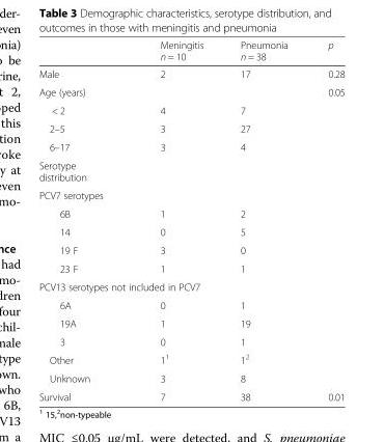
<table><thead><tr><td></td><td>Meningitis n = 10</td><td>Pneumonia n = 38</td><td>p</td></tr></thead><tbody><tr><td>Male</td><td>2</td><td>17</td><td>0.28</td></tr><tr><td colspan="3">Age (years)</td><td rowspan="4">0.05</td></tr><tr><td>&lt; 2</td><td>4</td><td>7</td></tr><tr><td>2–5</td><td>3</td><td>27</td></tr><tr><td>6–17</td><td>3</td><td>4</td></tr><tr><td>Serotype distribution</td><td rowspan="2"></td><td rowspan="2"></td><td rowspan="2"></td></tr><tr><td>PCV7 serotypes</td></tr><tr><td>6B</td><td>1</td><td>2</td><td></td></tr><tr><td>14</td><td>0</td><td>5</td><td></td></tr><tr><td>19 F</td><td>3</td><td>0</td><td></td></tr><tr><td>23 F</td><td>1</td><td>1</td><td></td></tr><tr><td colspan="4">PCV13 serotypes not included in PCV7</td></tr><tr><td>6A</td><td>0</td><td>1</td><td></td></tr><tr><td>19A</td><td>1</td><td>19</td><td></td></tr><tr><td>3</td><td>0</td><td>1</td><td></td></tr><tr><td>Other</td><td>1<sup>1</sup></td><td>1<sup>2</sup></td><td></td></tr><tr><td>Unknown</td><td>3</td><td>8</td><td></td></tr><tr><td>Survival</td><td>7</td><td>38</td><td>0.01</td></tr></tbody></table>